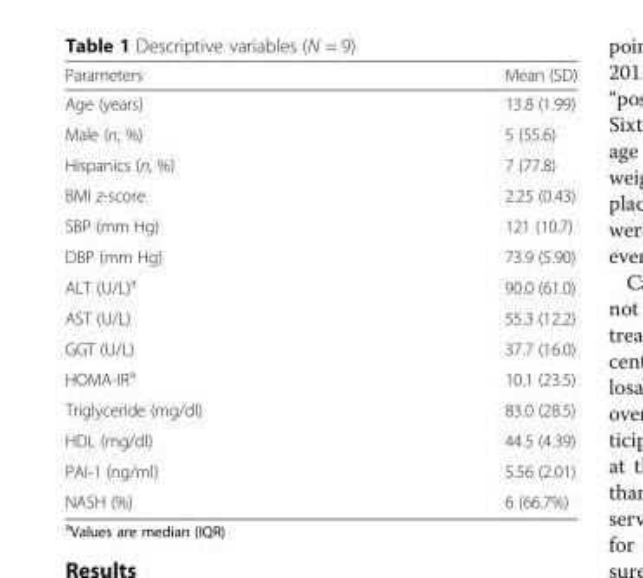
<table><thead><tr><td>Parameters</td><td>Mean (SD)</td></tr></thead><tbody><tr><td>Age (years)</td><td>13.8 (1.99)</td></tr><tr><td>Male (n, %)</td><td>5 (55.6)</td></tr><tr><td>Hispanics (n, %)</td><td>7 (77.8)</td></tr><tr><td>BMI z-score</td><td>2.25 (0.43)</td></tr><tr><td>SBP (mm Hg)</td><td>121 (10.7)</td></tr><tr><td>DBP (mm Hg)</td><td>73.9 (5.90)</td></tr><tr><td>ALT (U/L)<sup>a</sup></td><td>90.0 (61.0)</td></tr><tr><td>AST (U/L)</td><td>55.3 (12.2)</td></tr><tr><td>GGT (U/L)</td><td>37.7 (16.0)</td></tr><tr><td>HOMA-IR<sup>a</sup></td><td>10.1 (23.5)</td></tr><tr><td>Triglyceride (mg/dl)</td><td>83.0 (28.5)</td></tr><tr><td>HDL (mg/dl)</td><td>44.5 (4.39)</td></tr><tr><td>PAI-1 (ng/ml)</td><td>5.56 (2.01)</td></tr><tr><td>NASH (%)</td><td>6 (66.7%)</td></tr></tbody></table>